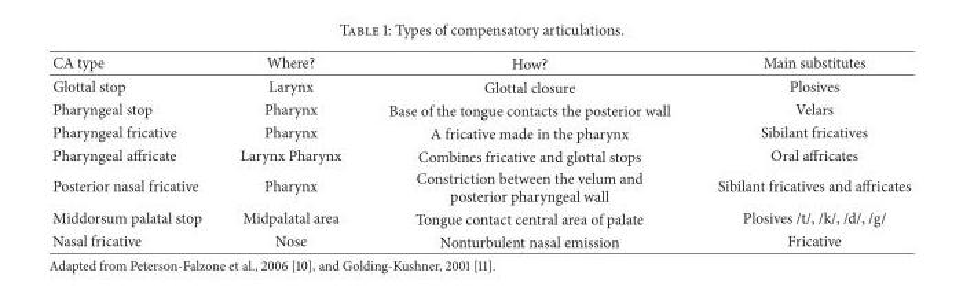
<table><thead><tr><td>CA type</td><td>Where?</td><td>How?</td><td>Main substitutes</td></tr></thead><tbody><tr><td>Glottal stop</td><td>Larynx</td><td>Glottal closure</td><td>Plosives</td></tr><tr><td>Pharyngeal stop</td><td>Pharynx</td><td>Base of the tongue contacts the posterior wall</td><td>Velars</td></tr><tr><td>Pharyngeal fricative</td><td>Pharynx</td><td>A fricative made in the pharynx</td><td>Sibilant fricatives</td></tr><tr><td>Pharyngeal affricate</td><td>Larynx Pharynx</td><td>Combines fricative and glottal stops</td><td>Oral affricates</td></tr><tr><td>Posterior nasal fricative</td><td>Pharynx</td><td>Constriction between the velum and posterior pharyngeal wall</td><td>Sibilant fricatives and affricates</td></tr><tr><td>Middorsum palatal stop</td><td>Midpalatal area</td><td>Tongue contact central area of palate</td><td>Plosives /t/, /k/, /d/, /g/</td></tr><tr><td>Nasal fricative</td><td>Nose</td><td>Nonturbulent nasal emission</td><td>Fricative</td></tr></tbody></table>